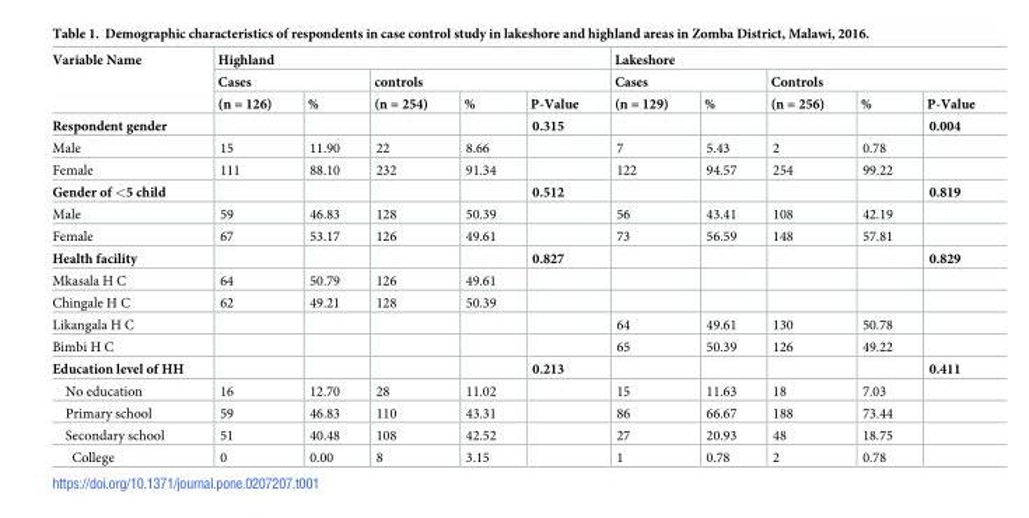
<table><thead><tr><td rowspan="3">Variable Name</td><td colspan="5">Highland</td><td colspan="5">Lakeshore</td></tr><tr><td colspan="2">Cases</td><td colspan="3">controls</td><td colspan="2">Cases</td><td colspan="3">Controls</td></tr><tr><td>(n = 126)</td><td>%</td><td>(n = 254)</td><td>%</td><td>P-Value</td><td>(n = 129)</td><td>%</td><td>(n = 256)</td><td>%</td><td>P-Value</td></tr></thead><tbody><tr><td>Respondent gender</td><td></td><td></td><td></td><td></td><td>0.315</td><td></td><td></td><td></td><td></td><td>0.004</td></tr><tr><td>Male</td><td>15</td><td>11.90</td><td>22</td><td>8.66</td><td></td><td>7</td><td>5.43</td><td>2</td><td>0.78</td><td></td></tr><tr><td>Female</td><td>111</td><td>88.10</td><td>232</td><td>91.34</td><td></td><td>122</td><td>94.57</td><td>254</td><td>99.22</td><td></td></tr><tr><td>Gender of &lt;5 child</td><td></td><td></td><td></td><td></td><td>0.512</td><td></td><td></td><td></td><td></td><td>0.819</td></tr><tr><td>Male</td><td>59</td><td>46.83</td><td>128</td><td>50.39</td><td></td><td>56</td><td>43.41</td><td>108</td><td>42.19</td><td></td></tr><tr><td>Female</td><td>67</td><td>53.17</td><td>126</td><td>49.61</td><td></td><td>73</td><td>56.59</td><td>148</td><td>57.81</td><td></td></tr><tr><td>Health facility</td><td></td><td></td><td></td><td></td><td>0.827</td><td></td><td></td><td></td><td></td><td>0.829</td></tr><tr><td>Mkasala H C</td><td>64</td><td>50.79</td><td>126</td><td>49.61</td><td></td><td></td><td></td><td></td><td></td><td></td></tr><tr><td>Chingale H C</td><td>62</td><td>49.21</td><td>128</td><td>50.39</td><td></td><td></td><td></td><td></td><td></td><td></td></tr><tr><td>Likangala H C</td><td></td><td></td><td></td><td></td><td></td><td>64</td><td>49.61</td><td>130</td><td>50.78</td><td></td></tr><tr><td>Bimbi H C</td><td></td><td></td><td></td><td></td><td></td><td>65</td><td>50.39</td><td>126</td><td>49.22</td><td></td></tr><tr><td>Education level of HH</td><td></td><td></td><td></td><td></td><td>0.213</td><td></td><td></td><td></td><td></td><td>0.411</td></tr><tr><td>No education</td><td>16</td><td>12.70</td><td>28</td><td>11.02</td><td></td><td>15</td><td>11.63</td><td>18</td><td>7.03</td><td></td></tr><tr><td>Primary school</td><td>59</td><td>46.83</td><td>110</td><td>43.31</td><td></td><td>86</td><td>66.67</td><td>188</td><td>73.44</td><td></td></tr><tr><td>Secondary school</td><td>51</td><td>40.48</td><td>108</td><td>42.52</td><td></td><td>27</td><td>20.93</td><td>48</td><td>18.75</td><td></td></tr><tr><td>College</td><td>0</td><td>0.00</td><td>8</td><td>3.15</td><td></td><td>1</td><td>0.78</td><td>2</td><td>0.78</td><td></td></tr></tbody></table>